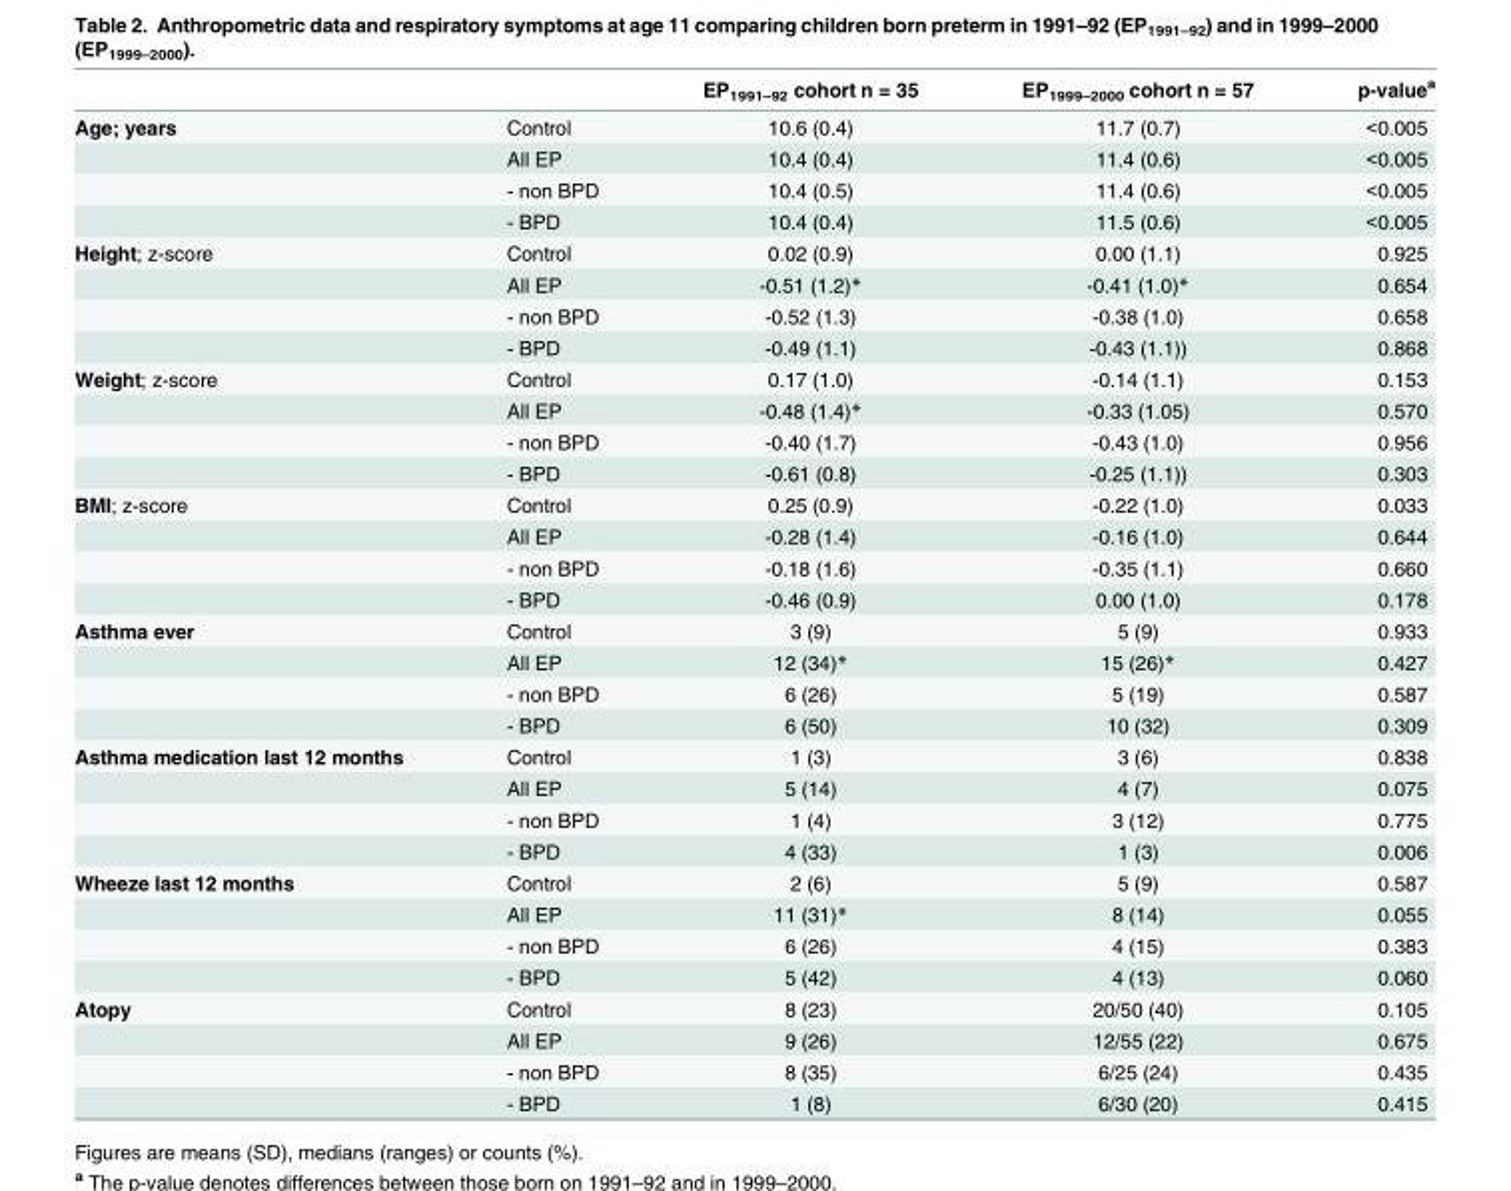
<table><thead><tr><td></td><td></td><td>EP<sub>1991–92</sub> cohort n = 35</td><td>EP<sub>1999–2000</sub> cohort n = 57</td><td>p-value<sup>a</sup></td></tr></thead><tbody><tr><td rowspan="4">Age; years</td><td>Control</td><td>10.6 (0.4)</td><td>11.7 (0.7)</td><td>&lt;0.005</td></tr><tr><td>All EP</td><td>10.4 (0.4)</td><td>11.4 (0.6)</td><td>&lt;0.005</td></tr><tr><td>- non BPD</td><td>10.4 (0.5)</td><td>11.4 (0.6)</td><td>&lt;0.005</td></tr><tr><td>- BPD</td><td>10.4 (0.4)</td><td>11.5 (0.6)</td><td>&lt;0.005</td></tr><tr><td rowspan="4">Height; z-score</td><td>Control</td><td>0.02 (0.9)</td><td>0.00 (1.1)</td><td>0.925</td></tr><tr><td>All EP</td><td>-0.51 (1.2)*</td><td>-0.41 (1.0)*</td><td>0.654</td></tr><tr><td>- non BPD</td><td>-0.52 (1.3)</td><td>-0.38 (1.0)</td><td>0.658</td></tr><tr><td>- BPD</td><td>-0.49 (1.1)</td><td>-0.43 (1.1))</td><td>0.868</td></tr><tr><td rowspan="4">Weight; z-score</td><td>Control</td><td>0.17 (1.0)</td><td>-0.14 (1.1)</td><td>0.153</td></tr><tr><td>All EP</td><td>-0.48 (1.4)*</td><td>-0.33 (1.05)</td><td>0.570</td></tr><tr><td>- non BPD</td><td>-0.40 (1.7)</td><td>-0.43 (1.0)</td><td>0.956</td></tr><tr><td>- BPD</td><td>-0.61 (0.8)</td><td>-0.25 (1.1))</td><td>0.303</td></tr><tr><td rowspan="4">BMI; z-score</td><td>Control</td><td>0.25 (0.9)</td><td>-0.22 (1.0)</td><td>0.033</td></tr><tr><td>All EP</td><td>-0.28 (1.4)</td><td>-0.16 (1.0)</td><td>0.644</td></tr><tr><td>- non BPD</td><td>-0.18 (1.6)</td><td>-0.35 (1.1)</td><td>0.660</td></tr><tr><td>- BPD</td><td>-0.46 (0.9)</td><td>0.00 (1.0)</td><td>0.178</td></tr><tr><td rowspan="4">Asthma ever</td><td>Control</td><td>3 (9)</td><td>5 (9)</td><td>0.933</td></tr><tr><td>All EP</td><td>12 (34)*</td><td>15 (26)*</td><td>0.427</td></tr><tr><td>- non BPD</td><td>6 (26)</td><td>5 (19)</td><td>0.587</td></tr><tr><td>- BPD</td><td>6 (50)</td><td>10 (32)</td><td>0.309</td></tr><tr><td rowspan="4">Asthma medication last 12 months</td><td>Control</td><td>1 (3)</td><td>3 (6)</td><td>0.838</td></tr><tr><td>All EP</td><td>5 (14)</td><td>4 (7)</td><td>0.075</td></tr><tr><td>- non BPD</td><td>1 (4)</td><td>3 (12)</td><td>0.775</td></tr><tr><td>- BPD</td><td>4 (33)</td><td>1 (3)</td><td>0.006</td></tr><tr><td rowspan="4">Wheeze last 12 months</td><td>Control</td><td>2 (6)</td><td>5 (9)</td><td>0.587</td></tr><tr><td>All EP</td><td>11 (31)*</td><td>8 (14)</td><td>0.055</td></tr><tr><td>- non BPD</td><td>6 (26)</td><td>4 (15)</td><td>0.383</td></tr><tr><td>- BPD</td><td>5 (42)</td><td>4 (13)</td><td>0.060</td></tr><tr><td rowspan="4">Atopy</td><td>Control</td><td>8 (23)</td><td>20/50 (40)</td><td>0.105</td></tr><tr><td>All EP</td><td>9 (26)</td><td>12/55 (22)</td><td>0.675</td></tr><tr><td>- non BPD</td><td>8 (35)</td><td>6/25 (24)</td><td>0.435</td></tr><tr><td>- BPD</td><td>1 (8)</td><td>6/30 (20)</td><td>0.415</td></tr></tbody></table>